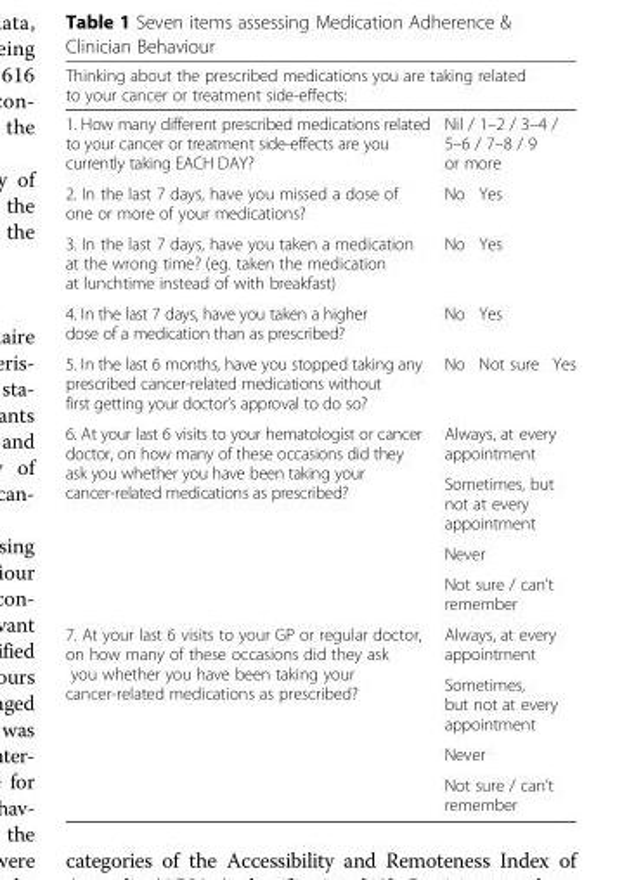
<table><thead><tr><td colspan="4">Thinking about the prescribed medications you are taking related to your cancer or treatment side-effects:</td></tr></thead><tbody><tr><td>1. How many different prescribed medications related to your cancer or treatment side-effects are you currently taking EACH DAY?</td><td colspan="3">Nil / 1–2 / 3–4 / 5–6 / 7–8 / 9 or more</td></tr><tr><td>2. In the last 7 days, have you missed a dose of one or more of your medications?</td><td>No</td><td colspan="2">Yes</td></tr><tr><td>3. In the last 7 days, have you taken a medication at the wrong time? (eg. taken the medication at lunchtime instead of with breakfast)</td><td>No</td><td colspan="2">Yes</td></tr><tr><td>4. In the last 7 days, have you taken a higher dose of a medication than as prescribed?</td><td>No</td><td colspan="2">Yes</td></tr><tr><td>5. In the last 6 months, have you stopped taking any prescribed cancer-related medications without first getting your doctor’s approval to do so?</td><td>No</td><td>Not sure</td><td>Yes</td></tr><tr><td rowspan="4">6. At your last 6 visits to your hematologist or cancer doctor, on how many of these occasions did they ask you whether you have been taking your cancer-related medications as prescribed?</td><td colspan="3">Always, at every appointment</td></tr><tr><td colspan="3">Sometimes, but not at every appointment</td></tr><tr><td colspan="3">Never</td></tr><tr><td colspan="3">Not sure / can’t remember</td></tr><tr><td rowspan="4">7. At your last 6 visits to your GP or regular doctor, on how many of these occasions did they ask you whether you have been taking your cancer-related medications as prescribed?</td><td colspan="3">Always, at every appointment</td></tr><tr><td colspan="3">Sometimes, but not at every appointment</td></tr><tr><td colspan="3">Never</td></tr><tr><td colspan="3">Not sure / can’t remember</td></tr></tbody></table>